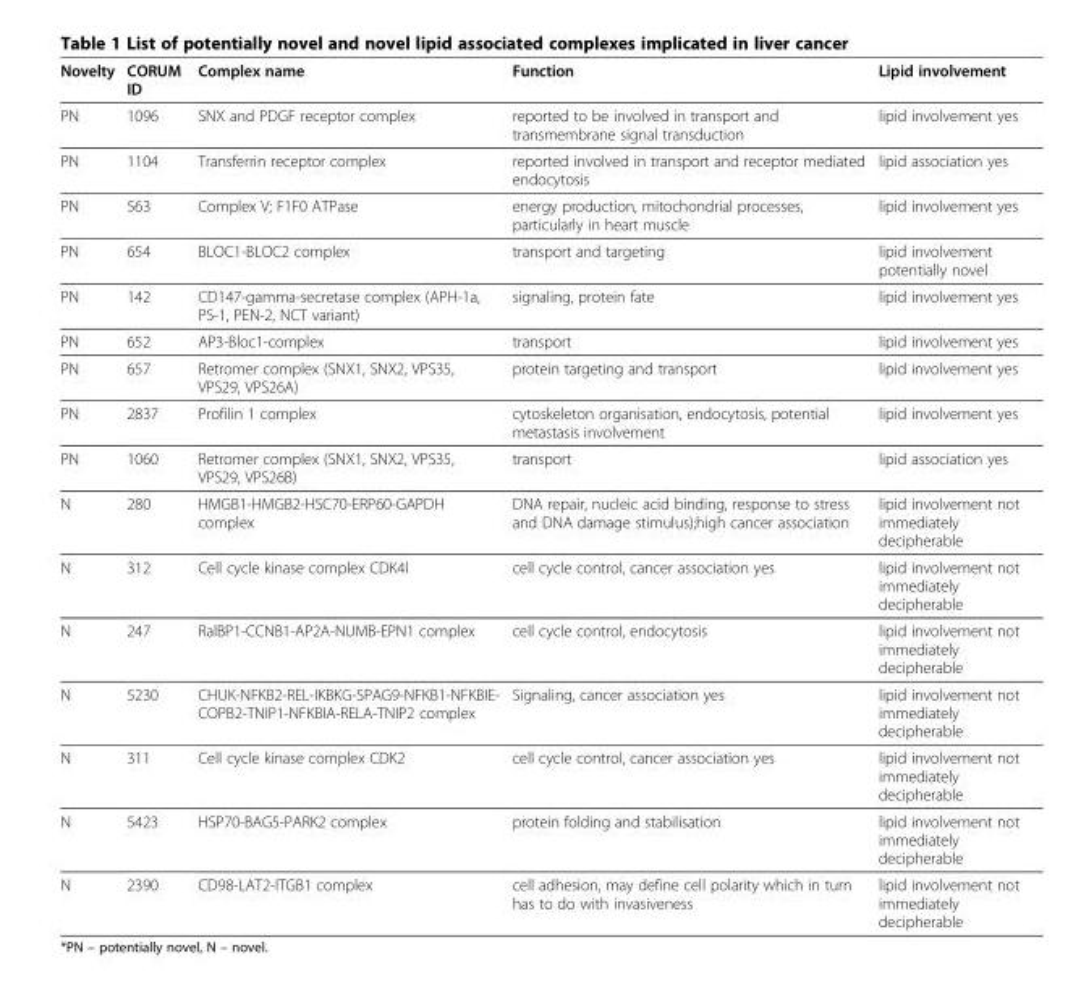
<table><thead><tr><td>Novelty</td><td>CORUM ID</td><td>Complex name</td><td>Function</td><td>Lipid involvement</td></tr></thead><tbody><tr><td>PN</td><td>1096</td><td>SNX and PDGF receptor complex</td><td>reported to be involved in transport and transmembrane signal transduction</td><td>lipid involvement yes</td></tr><tr><td>PN</td><td>1104</td><td>Transferrin receptor complex</td><td>reported involved in transport and receptor mediated endocytosis</td><td>lipid association yes</td></tr><tr><td>PN</td><td>563</td><td>Complex V; F1F0 ATPase</td><td>energy production, mitochondrial processes, particularly in heart muscle</td><td>lipid involvement yes</td></tr><tr><td>PN</td><td>654</td><td>BLOC1-BLOC2 complex</td><td>transport and targeting</td><td>lipid involvement potentially novel</td></tr><tr><td>PN</td><td>142</td><td>CD147-gamma-secretase complex (APH-1a, PS-1, PEN-2, NCT variant)</td><td>signaling, protein fate</td><td>lipid involvement yes</td></tr><tr><td>PN</td><td>652</td><td>AP3-Bloc1-complex</td><td>transport</td><td>lipid involvement yes</td></tr><tr><td>PN</td><td>657</td><td>Retromer complex (SNX1, SNX2, VPS35, VPS29, VPS26A)</td><td>protein targeting and transport</td><td>lipid involvement yes</td></tr><tr><td>PN</td><td>2837</td><td>Profilin 1 complex</td><td>cytoskeleton organisation, endocytosis, potential metastasis involvement</td><td>lipid involvement yes</td></tr><tr><td>PN</td><td>1060</td><td>Retromer complex (SNX1, SNX2, VPS35, VPS29, VPS26B)</td><td>transport</td><td>lipid association yes</td></tr><tr><td>N</td><td>280</td><td>HMGB1-HMGB2-HSC70-ERP60-GAPDH complex</td><td>DNA repair, nucleic acid binding, response to stress and DNA damage stimulus);high cancer association</td><td>lipid involvement not immediately decipherable</td></tr><tr><td>N</td><td>312</td><td>Cell cycle kinase complex CDK4l</td><td>cell cycle control, cancer association yes</td><td>lipid involvement not immediately decipherable</td></tr><tr><td>N</td><td>247</td><td>RalBP1-CCNB1-AP2A-NUMB-EPN1 complex</td><td>cell cycle control, endocytosis</td><td>lipid involvement not immediately decipherable</td></tr><tr><td>N</td><td>5230</td><td>CHUK-NFKB2-REL-IKBKG-SPAG9-NFKB1-NFKBIE- COPB2-TNIP1-NFKBIA-RELA-TNIP2 complex</td><td>Signaling, cancer association yes</td><td>lipid involvement not immediately decipherable</td></tr><tr><td>N</td><td>311</td><td>Cell cycle kinase complex CDK2</td><td>cell cycle control, cancer association yes</td><td>lipid involvement not immediately decipherable</td></tr><tr><td>N</td><td>5423</td><td>HSP70-BAG5-PARK2 complex</td><td>protein folding and stabilisation</td><td>lipid involvement not immediately decipherable</td></tr><tr><td>N</td><td>2390</td><td>CD98-LAT2-ITGB1 complex</td><td>cell adhesion, may define cell polarity which in turn has to do with invasiveness</td><td>lipid involvement not immediately decipherable</td></tr></tbody></table>